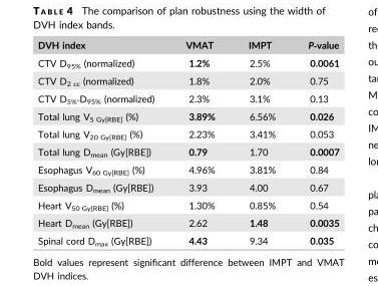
<table><thead><tr><td>DVH index</td><td>VMAT</td><td>IMPT</td><td>P‐value</td></tr></thead><tbody><tr><td>CTV D<sub>95%</sub> (normalized)</td><td>1.2%</td><td>2.5%</td><td>0.0061</td></tr><tr><td>CTV D<sub>2 cc</sub> (normalized)</td><td>1.8%</td><td>2.0%</td><td>0.75</td></tr><tr><td>CTV D<sub>5%</sub>‐D<sub>95%</sub> (normalized)</td><td>2.3%</td><td>3.1%</td><td>0.13</td></tr><tr><td>Total lung V<sub>5 Gy[RBE]</sub> (%)</td><td>3.89%</td><td>6.56%</td><td>0.026</td></tr><tr><td>Total lung V<sub>20 Gy[RBE]</sub> (%)</td><td>2.23%</td><td>3.41%</td><td>0.053</td></tr><tr><td>Total lung D<sub>mean</sub> (Gy[RBE])</td><td>0.79</td><td>1.70</td><td>0.0007</td></tr><tr><td>Esophagus V<sub>60 Gy[RBE]</sub> (%)</td><td>4.96%</td><td>3.81%</td><td>0.84</td></tr><tr><td>Esophagus D<sub>mean</sub> (Gy[RBE])</td><td>3.93</td><td>4.00</td><td>0.67</td></tr><tr><td>Heart V<sub>50 Gy[RBE]</sub> (%)</td><td>1.30%</td><td>0.85%</td><td>0.54</td></tr><tr><td>Heart D<sub>mean</sub> (Gy[RBE])</td><td>2.62</td><td>1.48</td><td>0.0035</td></tr><tr><td>Spinal cord D<sub>max</sub> (Gy[RBE])</td><td>4.43</td><td>9.34</td><td>0.035</td></tr></tbody></table>